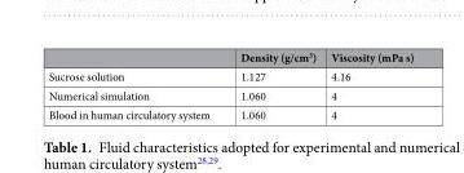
<table><thead><tr><td></td><td>Density (g/cm<sup>3</sup>)</td><td>Viscosity (mPa s)</td></tr></thead><tbody><tr><td>Sucrose solution</td><td>1.127</td><td>4.16</td></tr><tr><td>Numerical simulation</td><td>1.060</td><td>4</td></tr><tr><td>Blood in human circulatory system</td><td>1.060</td><td>4</td></tr></tbody></table>